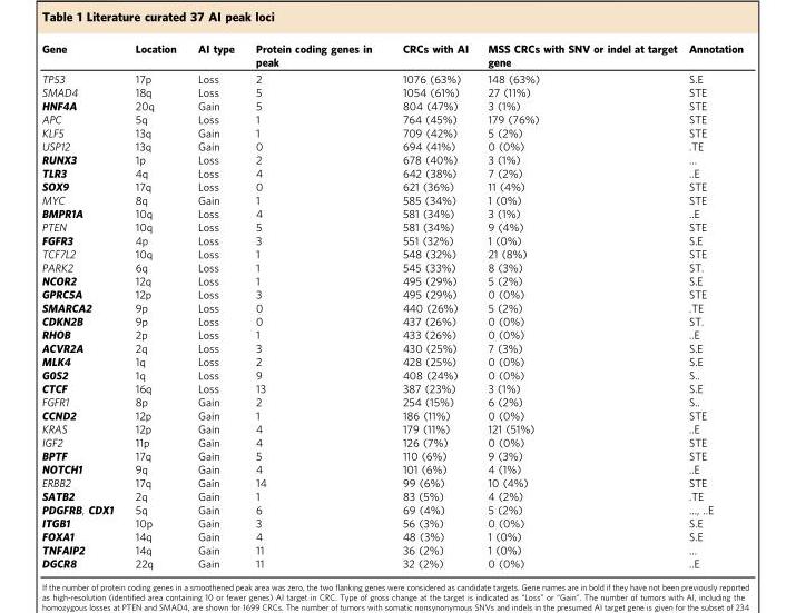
<table><thead><tr><td>Gene</td><td>Location</td><td>AI type</td><td>Protein coding genes in peak</td><td>CRCs with AI</td><td>MSS CRCs with SNV or indel at target gene</td><td>Annotation</td></tr></thead><tbody><tr><td>TP53</td><td>17p</td><td>Loss</td><td>2</td><td>1076 (63%)</td><td>148 (63%)</td><td>S.E</td></tr><tr><td>SMAD4</td><td>18q</td><td>Loss</td><td>5</td><td>1054 (61%)</td><td>27 (11%)</td><td>STE</td></tr><tr><td>HNF4A</td><td>20q</td><td>Gain</td><td>5</td><td>804 (47%)</td><td>3 (1%)</td><td>STE</td></tr><tr><td>APC</td><td>5q</td><td>Loss</td><td>1</td><td>764 (45%)</td><td>179 (76%)</td><td>STE</td></tr><tr><td>KLF5</td><td>13q</td><td>Gain</td><td>1</td><td>709 (42%)</td><td>5 (2%)</td><td>STE</td></tr><tr><td>USP12</td><td>13q</td><td>Gain</td><td>0</td><td>694 (41%)</td><td>0 (0%)</td><td>.TE</td></tr><tr><td>RUNX3</td><td>1p</td><td>Loss</td><td>2</td><td>678 (40%)</td><td>3 (1%)</td><td>…</td></tr><tr><td>TLR3</td><td>4q</td><td>Loss</td><td>4</td><td>642 (38%)</td><td>7 (2%)</td><td>..E</td></tr><tr><td>SOX9</td><td>17q</td><td>Loss</td><td>0</td><td>621 (36%)</td><td>11 (4%)</td><td>STE</td></tr><tr><td>MYC</td><td>8q</td><td>Gain</td><td>1</td><td>585 (34%)</td><td>1 (0%)</td><td>STE</td></tr><tr><td>BMPR1A</td><td>10q</td><td>Loss</td><td>4</td><td>581 (34%)</td><td>3 (1%)</td><td>..E</td></tr><tr><td>PTEN</td><td>10q</td><td>Loss</td><td>5</td><td>581 (34%)</td><td>9 (4%)</td><td>STE</td></tr><tr><td>FGFR3</td><td>4p</td><td>Loss</td><td>3</td><td>551 (32%)</td><td>1 (0%)</td><td>S.E</td></tr><tr><td>TCF7L2</td><td>10q</td><td>Loss</td><td>1</td><td>548 (32%)</td><td>21 (8%)</td><td>STE</td></tr><tr><td>PARK2</td><td>6q</td><td>Loss</td><td>1</td><td>545 (33%)</td><td>8 (3%)</td><td>ST.</td></tr><tr><td>NCOR2</td><td>12q</td><td>Loss</td><td>1</td><td>495 (29%)</td><td>5 (2%)</td><td>S.E</td></tr><tr><td>GPRC5A</td><td>12p</td><td>Loss</td><td>3</td><td>495 (29%)</td><td>0 (0%)</td><td>STE</td></tr><tr><td>SMARCA2</td><td>9p</td><td>Loss</td><td>0</td><td>440 (26%)</td><td>5 (2%)</td><td>.TE</td></tr><tr><td>CDKN2B</td><td>9p</td><td>Loss</td><td>0</td><td>437 (26%)</td><td>0 (0%)</td><td>ST.</td></tr><tr><td>RHOB</td><td>2p</td><td>Loss</td><td>1</td><td>433 (26%)</td><td>0 (0%)</td><td>..E</td></tr><tr><td>ACVR2A</td><td>2q</td><td>Loss</td><td>3</td><td>430 (25%)</td><td>7 (3%)</td><td>S.E</td></tr><tr><td>MLK4</td><td>1q</td><td>Loss</td><td>2</td><td>428 (25%)</td><td>0 (0%)</td><td>S.E</td></tr><tr><td>G0S2</td><td>1q</td><td>Loss</td><td>9</td><td>408 (24%)</td><td>0 (0%)</td><td>S..</td></tr><tr><td>CTCF</td><td>16q</td><td>Loss</td><td>13</td><td>387 (23%)</td><td>3 (1%)</td><td>S.E</td></tr><tr><td>FGFR1</td><td>8p</td><td>Gain</td><td>2</td><td>254 (15%)</td><td>6 (2%)</td><td>S..</td></tr><tr><td>CCND2</td><td>12p</td><td>Gain</td><td>1</td><td>186 (11%)</td><td>0 (0%)</td><td>STE</td></tr><tr><td>KRAS</td><td>12p</td><td>Gain</td><td>4</td><td>179 (11%)</td><td>121 (51%)</td><td>..E</td></tr><tr><td>IGF2</td><td>11p</td><td>Gain</td><td>4</td><td>126 (7%)</td><td>0 (0%)</td><td>STE</td></tr><tr><td>BPTF</td><td>17q</td><td>Gain</td><td>5</td><td>110 (6%)</td><td>9 (3%)</td><td>STE</td></tr><tr><td>NOTCH1</td><td>9q</td><td>Gain</td><td>4</td><td>101 (6%)</td><td>4 (1%)</td><td>..E</td></tr><tr><td>ERBB2</td><td>17q</td><td>Gain</td><td>14</td><td>99 (6%)</td><td>10 (4%)</td><td>STE</td></tr><tr><td>SATB2</td><td>2q</td><td>Gain</td><td>1</td><td>83 (5%)</td><td>4 (2%)</td><td>.TE</td></tr><tr><td>PDGFRB, CDX1</td><td>5q</td><td>Gain</td><td>6</td><td>69 (4%)</td><td>5 (2%)</td><td>…, ..E</td></tr><tr><td>ITGB1</td><td>10p</td><td>Gain</td><td>3</td><td>56 (3%)</td><td>0 (0%)</td><td>S.E</td></tr><tr><td>FOXA1</td><td>14q</td><td>Gain</td><td>4</td><td>48 (3%)</td><td>1 (0%)</td><td>S.E</td></tr><tr><td>TNFAIP2</td><td>14q</td><td>Gain</td><td>11</td><td>36 (2%)</td><td>1 (0%)</td><td>…</td></tr><tr><td>DGCR8</td><td>22q</td><td>Gain</td><td>11</td><td>32 (2%)</td><td>0 (0%)</td><td>..E</td></tr></tbody></table>